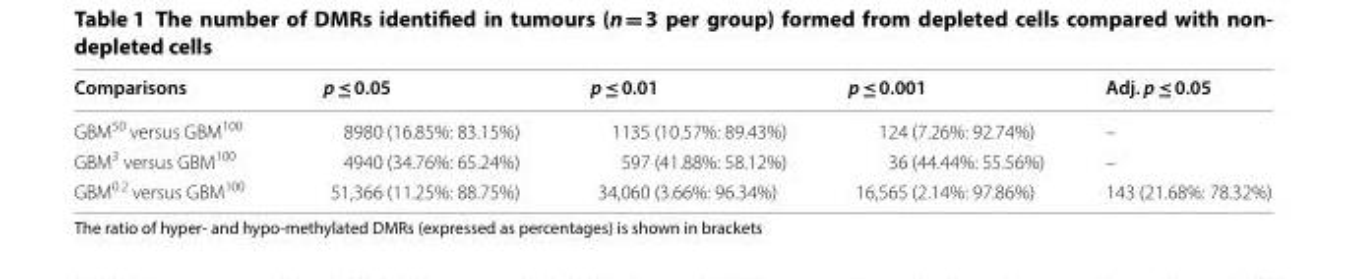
<table><thead><tr><td>Comparisons</td><td>p ≤ 0.05</td><td>p ≤ 0.01</td><td>p ≤ 0.001</td><td>Adj. p ≤ 0.05</td></tr></thead><tbody><tr><td>GBM<sup>50</sup> versus GBM<sup>100</sup></td><td>8980 (16.85%: 83.15%)</td><td>1135 (10.57%: 89.43%)</td><td>124 (7.26%: 92.74%)</td><td>–</td></tr><tr><td>GBM<sup>3</sup> versus GBM<sup>100</sup></td><td>4940 (34.76%: 65.24%)</td><td>597 (41.88%: 58.12%)</td><td>36 (44.44%: 55.56%)</td><td>–</td></tr><tr><td>GBM<sup>0.2</sup> versus GBM<sup>100</sup></td><td>51,366 (11.25%: 88.75%)</td><td>34,060 (3.66%: 96.34%)</td><td>16,565 (2.14%: 97.86%)</td><td>143 (21.68%: 78.32%)</td></tr></tbody></table>